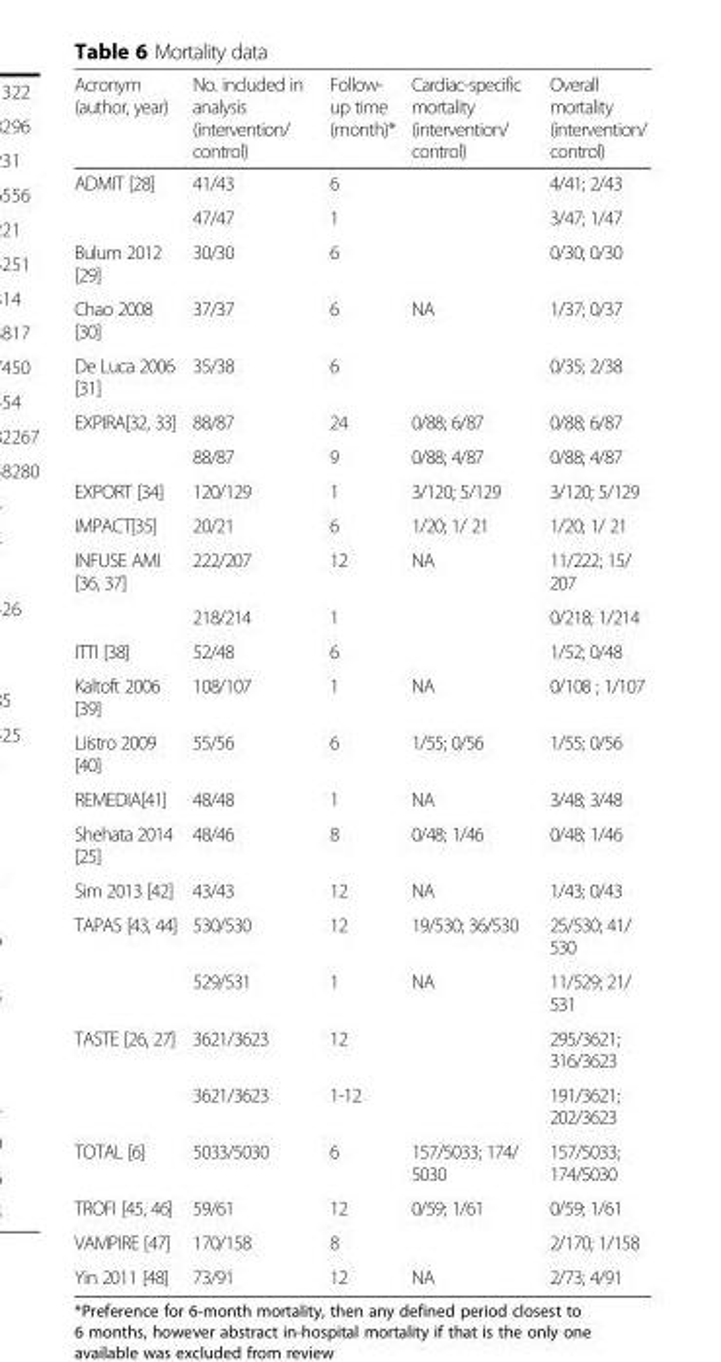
<table><thead><tr><td>Acronym (author, year)</td><td>No. included in analysis (intervention/ control)</td><td>Follow- up time (month)*</td><td>Cardiac-specific mortality (intervention/ control)</td><td>Overall mortality (intervention/ control)</td></tr></thead><tbody><tr><td rowspan="2">ADMIT [28]</td><td>41/43</td><td>6</td><td></td><td>4/41; 2/43</td></tr><tr><td>47/47</td><td>1</td><td></td><td>3/47; 1/47</td></tr><tr><td>Bulum 2012 [29]</td><td>30/30</td><td>6</td><td></td><td>0/30; 0/30</td></tr><tr><td>Chao 2008 [30]</td><td>37/37</td><td>6</td><td>NA</td><td>1/37; 0/37</td></tr><tr><td>De Luca 2006 [31]</td><td>35/38</td><td>6</td><td></td><td>0/35; 2/38</td></tr><tr><td rowspan="2">EXPIRA[32, 33]</td><td>88/87</td><td>24</td><td>0/88; 6/87</td><td>0/88; 6/87</td></tr><tr><td>88/87</td><td>9</td><td>0/88; 4/87</td><td>0/88; 4/87</td></tr><tr><td>EXPORT [34]</td><td>120/129</td><td>1</td><td>3/120; 5/129</td><td>3/120; 5/129</td></tr><tr><td>IMPACT[35]</td><td>20/21</td><td>6</td><td>1/20; 1/ 21</td><td>1/20; 1/ 21</td></tr><tr><td rowspan="2">INFUSE AMI [36, 37]</td><td>222/207</td><td>12</td><td>NA</td><td>11/222; 15/ 207</td></tr><tr><td>218/214</td><td>1</td><td></td><td>0/218; 1/214</td></tr><tr><td>ITTI [38]</td><td>52/48</td><td>6</td><td></td><td>1/52; 0/48</td></tr><tr><td>Kaltoft 2006 [39]</td><td>108/107</td><td>1</td><td>NA</td><td>0/108 ; 1/107</td></tr><tr><td>Liistro 2009 [40]</td><td>55/56</td><td>6</td><td>1/55; 0/56</td><td>1/55; 0/56</td></tr><tr><td>REMEDIA[41]</td><td>48/48</td><td>1</td><td>NA</td><td>3/48; 3/48</td></tr><tr><td>Shehata 2014 [25]</td><td>48/46</td><td>8</td><td>0/48; 1/46</td><td>0/48; 1/46</td></tr><tr><td>Sim 2013 [42]</td><td>43/43</td><td>12</td><td>NA</td><td>1/43; 0/43</td></tr><tr><td rowspan="2">TAPAS [43, 44]</td><td>530/530</td><td>12</td><td>19/530; 36/530</td><td>25/530; 41/ 530</td></tr><tr><td>529/531</td><td>1</td><td>NA</td><td>11/529; 21/ 531</td></tr><tr><td rowspan="2">TASTE [26, 27]</td><td>3621/3623</td><td>12</td><td></td><td>295/3621; 316/3623</td></tr><tr><td>3621/3623</td><td>1-12</td><td></td><td>191/3621; 202/3623</td></tr><tr><td>TOTAL [6]</td><td>5033/5030</td><td>6</td><td>157/5033; 174/ 5030</td><td>157/5033; 174/5030</td></tr><tr><td>TROFI [45, 46]</td><td>59/61</td><td>12</td><td>0/59; 1/61</td><td>0/59; 1/61</td></tr><tr><td>VAMPIRE [47]</td><td>170/158</td><td>8</td><td></td><td>2/170; 1/158</td></tr><tr><td>Yin 2011 [48]</td><td>73/91</td><td>12</td><td>NA</td><td>2/73; 4/91</td></tr></tbody></table>